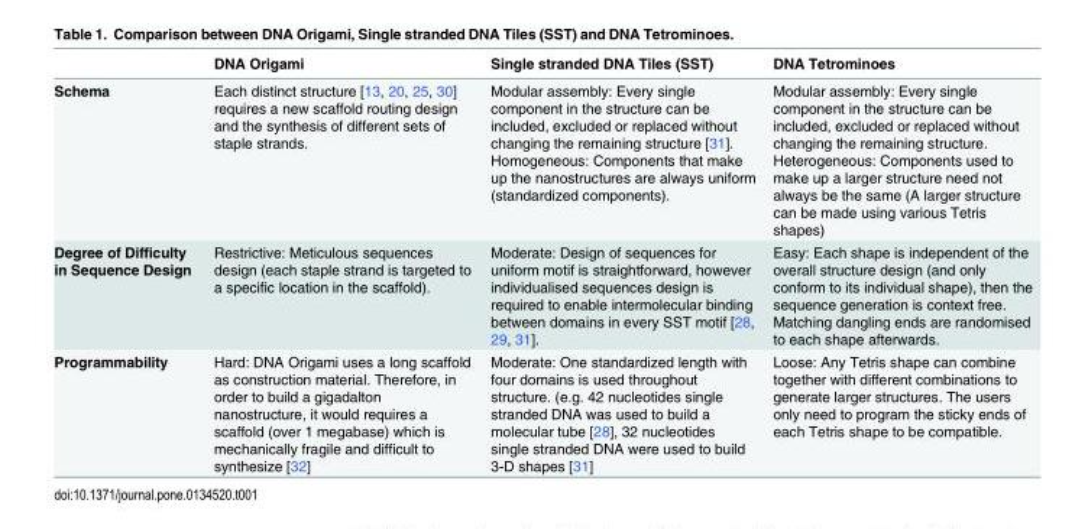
<table><thead><tr><td></td><td>DNA Origami</td><td>Single stranded DNA Tiles (SST)</td><td>DNA Tetrominoes</td></tr></thead><tbody><tr><td>Schema</td><td>Each distinct structure [13, 20, 25, 30] requires a new scaffold routing design and the synthesis of different sets of staple strands.</td><td>Modular assembly: Every single component in the structure can be included, excluded or replaced without changing the remaining structure [31]. Homogeneous: Components that make up the nanostructures are always uniform (standardized components).</td><td>Modular assembly: Every single component in the structure can be included, excluded or replaced without changing the remaining structure. Heterogeneous: Components used to make up a larger structure need not always be the same (A larger structure can be made using various Tetris shapes)</td></tr><tr><td>Degree of Difficulty in Sequence Design</td><td>Restrictive: Meticulous sequences design (each staple strand is targeted to a specific location in the scaffold).</td><td>Moderate: Design of sequences for uniform motif is straightforward, however individualised sequences design is required to enable intermolecular binding between domains in every SST motif [28, 29, 31].</td><td>Easy: Each shape is independent of the overall structure design (and only conform to its individual shape), then the sequence generation is context free. Matching dangling ends are randomised to each shape afterwards.</td></tr><tr><td>Programmability</td><td>Hard: DNA Origami uses a long scaffold as construction material. Therefore, in order to build a gigadalton nanostructure, it would requires a scaffold (over 1 megabase) which is mechanically fragile and difficult to synthesize [32]</td><td>Moderate: One standardized length with four domains is used throughout structure. (e.g. 42 nucleotides single stranded DNA was used to build a molecular tube [28], 32 nucleotides single stranded DNA were used to build 3-D shapes [31]</td><td>Loose: Any Tetris shape can combine together with different combinations to generate larger structures. The users only need to program the sticky ends of each Tetris shape to be compatible.</td></tr></tbody></table>